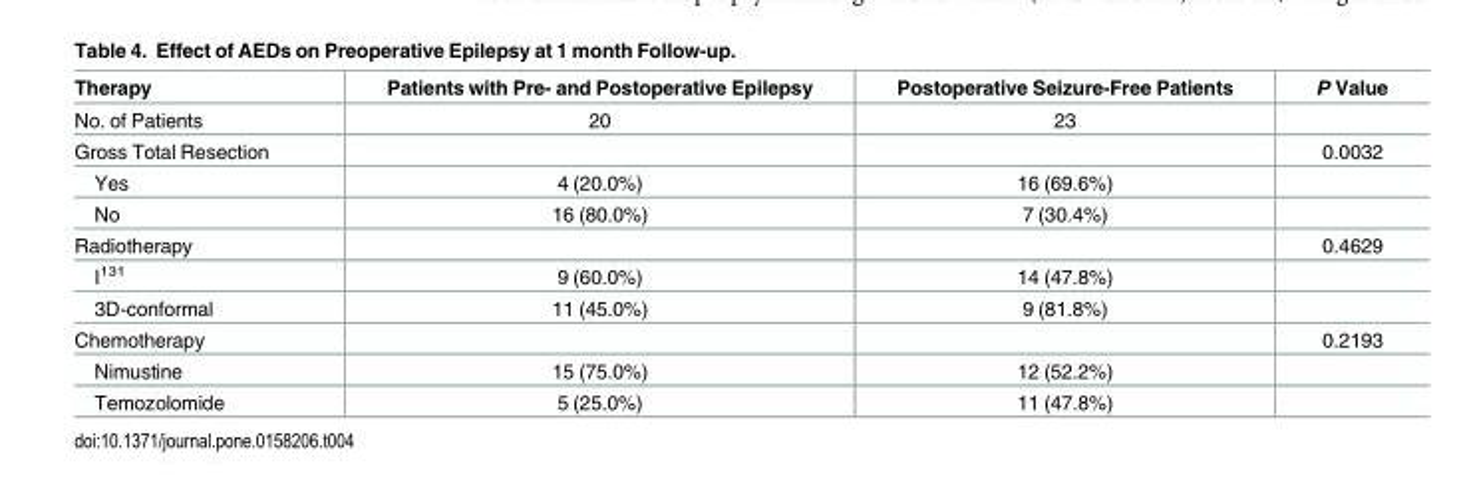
<table><thead><tr><td>Therapy</td><td>Patients with Pre- and Postoperative Epilepsy</td><td>Postoperative Seizure-Free Patients</td><td>P Value</td></tr></thead><tbody><tr><td>No. of Patients</td><td>20</td><td>23</td><td></td></tr><tr><td>Gross Total Resection</td><td></td><td></td><td>0.0032</td></tr><tr><td>Yes</td><td>4 (20.0%)</td><td>16 (69.6%)</td><td></td></tr><tr><td>No</td><td>16 (80.0%)</td><td>7 (30.4%)</td><td></td></tr><tr><td>Radiotherapy</td><td></td><td></td><td>0.4629</td></tr><tr><td>I<sup>131</sup></td><td>9 (60.0%)</td><td>14 (47.8%)</td><td></td></tr><tr><td>3D-conformal</td><td>11 (45.0%)</td><td>9 (81.8%)</td><td></td></tr><tr><td>Chemotherapy</td><td></td><td></td><td>0.2193</td></tr><tr><td>Nimustine</td><td>15 (75.0%)</td><td>12 (52.2%)</td><td></td></tr><tr><td>Temozolomide</td><td>5 (25.0%)</td><td>11 (47.8%)</td><td></td></tr></tbody></table>